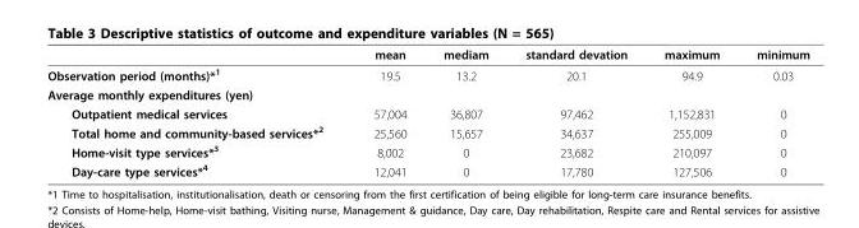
<table><thead><tr><td></td><td>mean</td><td>mediam</td><td>standard devation</td><td>maximum</td><td>minimum</td></tr></thead><tbody><tr><td>Observation period (months)*<sup>1</sup></td><td>19.5</td><td>13.2</td><td>20.1</td><td>94.9</td><td>0.03</td></tr><tr><td colspan="6">Average monthly expenditures (yen)</td></tr><tr><td>Outpatient medical services</td><td>57,004</td><td>36,807</td><td>97,462</td><td>1,152,831</td><td>0</td></tr><tr><td>Total home and community-based services*<sup>2</sup></td><td>25,560</td><td>15,657</td><td>34,637</td><td>255,009</td><td>0</td></tr><tr><td>Home-visit type services*<sup>3</sup></td><td>8,002</td><td>0</td><td>23,682</td><td>210,097</td><td>0</td></tr><tr><td>Day-care type services*<sup>4</sup></td><td>12,041</td><td>0</td><td>17,780</td><td>127,506</td><td>0</td></tr></tbody></table>